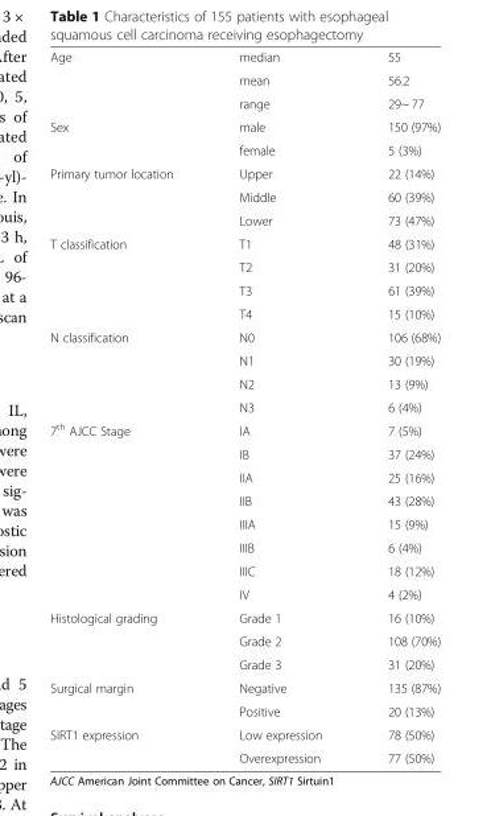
<table><tbody><tr><td rowspan="3">Age</td><td>median</td><td>55</td></tr><tr><td>mean</td><td>56.2</td></tr><tr><td>range</td><td>29~ 77</td></tr><tr><td rowspan="2">Sex</td><td>male</td><td>150 (97%)</td></tr><tr><td>female</td><td>5 (3%)</td></tr><tr><td rowspan="3">Primary tumor location</td><td>Upper</td><td>22 (14%)</td></tr><tr><td>Middle</td><td>60 (39%)</td></tr><tr><td>Lower</td><td>73 (47%)</td></tr><tr><td rowspan="4">T classification</td><td>T1</td><td>48 (31%)</td></tr><tr><td>T2</td><td>31 (20%)</td></tr><tr><td>T3</td><td>61 (39%)</td></tr><tr><td>T4</td><td>15 (10%)</td></tr><tr><td rowspan="4">N classification</td><td>N0</td><td>106 (68%)</td></tr><tr><td>N1</td><td>30 (19%)</td></tr><tr><td>N2</td><td>13 (9%)</td></tr><tr><td>N3</td><td>6 (4%)</td></tr><tr><td rowspan="8">7<sup>th</sup> AJCC Stage</td><td>IA</td><td>7 (5%)</td></tr><tr><td>IB</td><td>37 (24%)</td></tr><tr><td>IIA</td><td>25 (16%)</td></tr><tr><td>IIB</td><td>43 (28%)</td></tr><tr><td>IIIA</td><td>15 (9%)</td></tr><tr><td>IIIB</td><td>6 (4%)</td></tr><tr><td>IIIC</td><td>18 (12%)</td></tr><tr><td>IV</td><td>4 (2%)</td></tr><tr><td rowspan="3">Histological grading</td><td>Grade 1</td><td>16 (10%)</td></tr><tr><td>Grade 2</td><td>108 (70%)</td></tr><tr><td>Grade 3</td><td>31 (20%)</td></tr><tr><td rowspan="2">Surgical margin</td><td>Negative</td><td>135 (87%)</td></tr><tr><td>Positive</td><td>20 (13%)</td></tr><tr><td rowspan="2">SIRT1 expression</td><td>Low expression</td><td>78 (50%)</td></tr><tr><td>Overexpression</td><td>77 (50%)</td></tr></tbody></table>